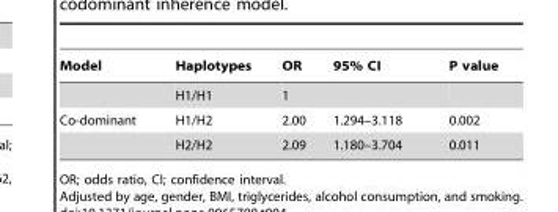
<table><thead><tr><td>Model</td><td>Haplotypes</td><td>OR</td><td>95% CI</td><td>P value</td></tr></thead><tbody><tr><td></td><td>H1/H1</td><td>1</td><td></td><td></td></tr><tr><td rowspan="2">Co-dominant</td><td>H1/H2</td><td>2.00</td><td>1.294–3.118</td><td>0.002</td></tr><tr><td>H2/H2</td><td>2.09</td><td>1.180–3.704</td><td>0.011</td></tr></tbody></table>